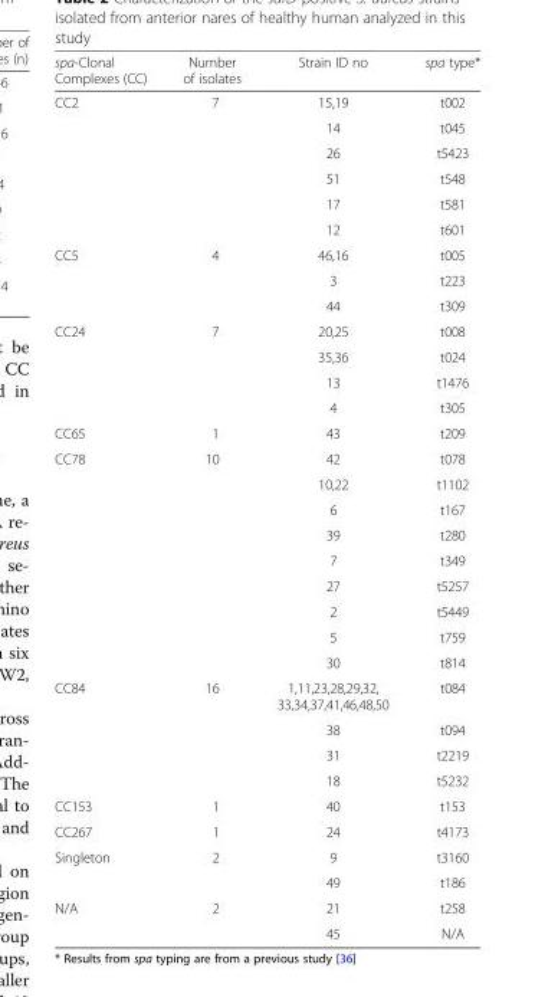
<table><thead><tr><td>spa-Clonal Complexes (CC)</td><td>Number of isolates</td><td>Strain ID no</td><td>spa type*</td></tr></thead><tbody><tr><td rowspan="6">CC2</td><td rowspan="6">7</td><td>15,19</td><td>t002</td></tr><tr><td>14</td><td>t045</td></tr><tr><td>26</td><td>t5423</td></tr><tr><td>51</td><td>t548</td></tr><tr><td>17</td><td>t581</td></tr><tr><td>12</td><td>t601</td></tr><tr><td rowspan="3">CC5</td><td rowspan="3">4</td><td>46,16</td><td>t005</td></tr><tr><td>3</td><td>t223</td></tr><tr><td>44</td><td>t309</td></tr><tr><td rowspan="4">CC24</td><td rowspan="4">7</td><td>20,25</td><td>t008</td></tr><tr><td>35,36</td><td>t024</td></tr><tr><td>13</td><td>t1476</td></tr><tr><td>4</td><td>t305</td></tr><tr><td>CC65</td><td>1</td><td>43</td><td>t209</td></tr><tr><td rowspan="9">CC78</td><td rowspan="9">10</td><td>42</td><td>t078</td></tr><tr><td>10,22</td><td>t1102</td></tr><tr><td>6</td><td>t167</td></tr><tr><td>39</td><td>t280</td></tr><tr><td>7</td><td>t349</td></tr><tr><td>27</td><td>t5257</td></tr><tr><td>2</td><td>t5449</td></tr><tr><td>5</td><td>t759</td></tr><tr><td>30</td><td>t814</td></tr><tr><td rowspan="4">CC84</td><td rowspan="4">16</td><td>1,11,23,28,29,32, 33,34,37,41,46,48,50</td><td>t084</td></tr><tr><td>38</td><td>t094</td></tr><tr><td>31</td><td>t2219</td></tr><tr><td>18</td><td>t5232</td></tr><tr><td>CC153</td><td>1</td><td>40</td><td>t153</td></tr><tr><td>CC267</td><td>1</td><td>24</td><td>t4173</td></tr><tr><td rowspan="2">Singleton</td><td rowspan="2">2</td><td>9</td><td>t3160</td></tr><tr><td>49</td><td>t186</td></tr><tr><td rowspan="2">N/A</td><td rowspan="2">2</td><td>21</td><td>t258</td></tr><tr><td>45</td><td>N/A</td></tr></tbody></table>